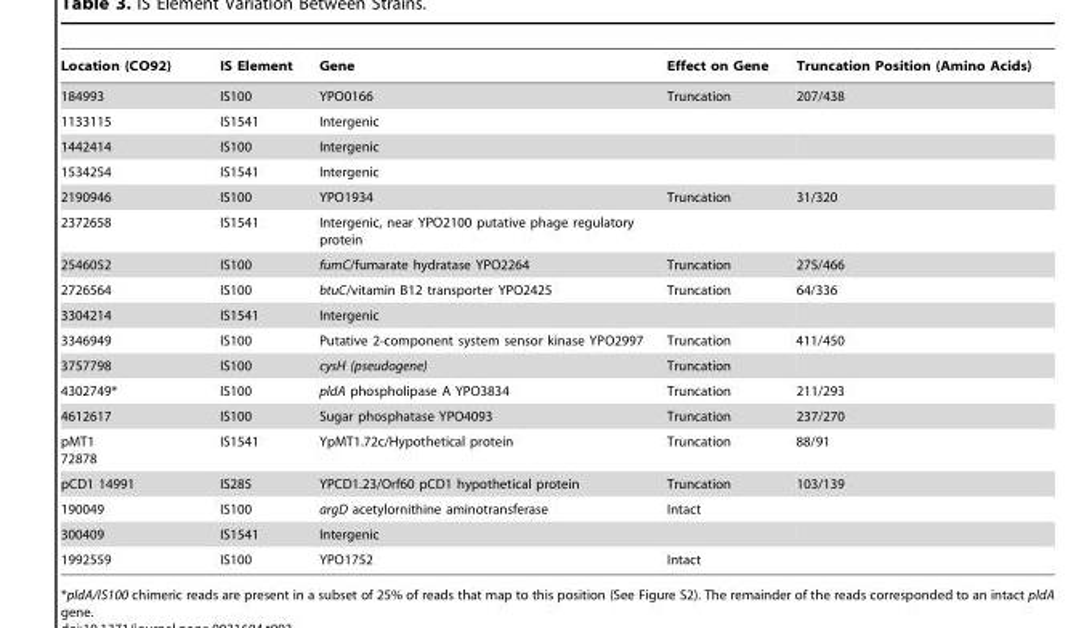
<table><thead><tr><td>Location (CO92)</td><td>IS Element</td><td>Gene</td><td>Effect on Gene</td><td>Truncation Position (Amino Acids)</td></tr></thead><tbody><tr><td>184993</td><td>IS100</td><td>YPO0166</td><td>Truncation</td><td>207/438</td></tr><tr><td>1133115</td><td>IS1541</td><td>Intergenic</td><td></td><td></td></tr><tr><td>1442414</td><td>IS100</td><td>Intergenic</td><td></td><td></td></tr><tr><td>1534254</td><td>IS1541</td><td>Intergenic</td><td></td><td></td></tr><tr><td>2190946</td><td>IS100</td><td>YPO1934</td><td>Truncation</td><td>31/320</td></tr><tr><td>2372658</td><td>IS1541</td><td>Intergenic, near YPO2100 putative phage regulatory protein</td><td></td><td></td></tr><tr><td>2546052</td><td>IS100</td><td>fumC/fumarate hydratase YPO2264</td><td>Truncation</td><td>275/466</td></tr><tr><td>2726564</td><td>IS100</td><td>btuC/vitamin B12 transporter YPO2425</td><td>Truncation</td><td>64/336</td></tr><tr><td>3304214</td><td>IS1541</td><td>Intergenic</td><td></td><td></td></tr><tr><td>3346949</td><td>IS100</td><td>Putative 2-component system sensor kinase YPO2997</td><td>Truncation</td><td>411/450</td></tr><tr><td>3757798</td><td>IS100</td><td>cysH (pseudogene)</td><td>Truncation</td><td></td></tr><tr><td>4302749*</td><td>IS100</td><td>pldA phospholipase A YPO3834</td><td>Truncation</td><td>211/293</td></tr><tr><td>4612617</td><td>IS100</td><td>Sugar phosphatase YPO4093</td><td>Truncation</td><td>237/270</td></tr><tr><td>pMT1 72878</td><td>IS1541</td><td>YpMT1.72c/Hypothetical protein</td><td>Truncation</td><td>88/91</td></tr><tr><td>pCD1 14991</td><td>IS285</td><td>YPCD1.23/Orf60 pCD1 hypothetical protein</td><td>Truncation</td><td>103/139</td></tr><tr><td>190049</td><td>IS100</td><td>argD acetylornithine aminotransferase</td><td>Intact</td><td></td></tr><tr><td>300409</td><td>IS1541</td><td>Intergenic</td><td></td><td></td></tr><tr><td>1992559</td><td>IS100</td><td>YPO1752</td><td>Intact</td><td></td></tr></tbody></table>